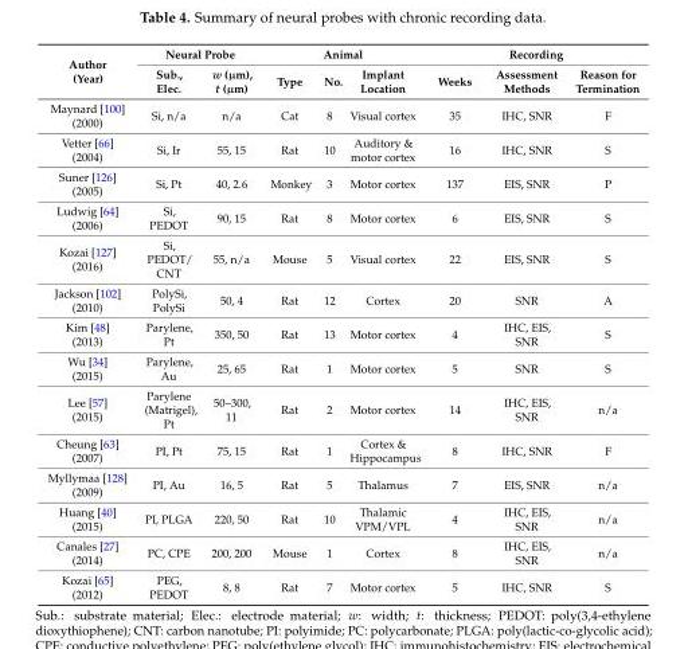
<table><thead><tr><td rowspan="2">Author (Year)</td><td colspan="2">Neural Probe</td><td colspan="3">Animal</td><td colspan="3">Recording</td></tr><tr><td>Sub., Elec.</td><td>w (µm), t (µm)</td><td>Type</td><td>No.</td><td>Implant Location</td><td>Weeks</td><td>Assessment Methods</td><td>Reason for Termination</td></tr></thead><tbody><tr><td>Maynard [100] (2000)</td><td>Si, n/a</td><td>n/a</td><td>Cat</td><td>8</td><td>Visual cortex</td><td>35</td><td>IHC, SNR</td><td>F</td></tr><tr><td>Vetter [66] (2004)</td><td>Si, Ir</td><td>55, 15</td><td>Rat</td><td>10</td><td>Auditory &amp; motor cortex</td><td>16</td><td>IHC, SNR</td><td>S</td></tr><tr><td>Suner [126] (2005)</td><td>Si, Pt</td><td>40, 2.6</td><td>Monkey</td><td>3</td><td>Motor cortex</td><td>137</td><td>EIS, SNR</td><td>P</td></tr><tr><td>Ludwig [64] (2006)</td><td>Si, PEDOT</td><td>90, 15</td><td>Rat</td><td>8</td><td>Motor cortex</td><td>6</td><td>EIS, SNR</td><td>S</td></tr><tr><td>Kozai [127] (2016)</td><td>Si, PEDOT/ CNT</td><td>55, n/a</td><td>Mouse</td><td>5</td><td>Visual cortex</td><td>22</td><td>EIS, SNR</td><td>S</td></tr><tr><td>Jackson [102] (2010)</td><td>PolySi, PolySi</td><td>50, 4</td><td>Rat</td><td>12</td><td>Cortex</td><td>20</td><td>SNR</td><td>A</td></tr><tr><td>Kim [48] (2013)</td><td>Parylene, Pt</td><td>350, 50</td><td>Rat</td><td>13</td><td>Motor cortex</td><td>4</td><td>IHC, EIS, SNR</td><td>S</td></tr><tr><td>Wu [34] (2015)</td><td>Parylene, Au</td><td>25, 65</td><td>Rat</td><td>1</td><td>Motor cortex</td><td>5</td><td>SNR</td><td>S</td></tr><tr><td>Lee [57] (2015)</td><td>Parylene (Matrigel), Pt</td><td>50–300, 11</td><td>Rat</td><td>2</td><td>Motor cortex</td><td>14</td><td>IHC, EIS, SNR</td><td>n/a</td></tr><tr><td>Cheung [63] (2007)</td><td>PI, Pt</td><td>75, 15</td><td>Rat</td><td>1</td><td>Cortex &amp; Hippocampus</td><td>8</td><td>IHC, SNR</td><td>F</td></tr><tr><td>Myllymaa [128] (2009)</td><td>PI, Au</td><td>16, 5</td><td>Rat</td><td>5</td><td>Thalamus</td><td>7</td><td>EIS, SNR</td><td>n/a</td></tr><tr><td>Huang [40] (2015)</td><td>PI, PLGA</td><td>220, 50</td><td>Rat</td><td>10</td><td>Thalamic VPM/VPL</td><td>4</td><td>IHC, EIS, SNR</td><td>n/a</td></tr><tr><td>Canales [27] (2014)</td><td>PC, CPE</td><td>200, 200</td><td>Mouse</td><td>1</td><td>Cortex</td><td>8</td><td>IHC, EIS, SNR</td><td>n/a</td></tr><tr><td>Kozai [65] (2012)</td><td>PEG, PEDOT</td><td>8, 8</td><td>Rat</td><td>7</td><td>Motor cortex</td><td>5</td><td>IHC, SNR</td><td>S</td></tr></tbody></table>